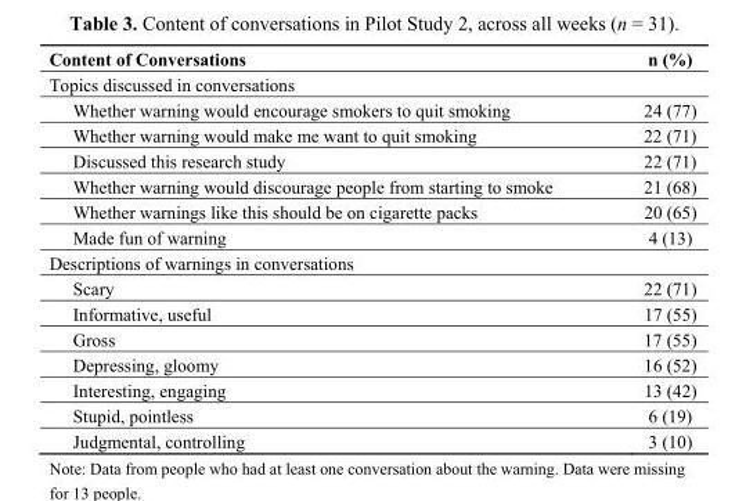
<table><thead><tr><td>Content of Conversations</td><td>n (%)</td></tr></thead><tbody><tr><td colspan="2">Topics discussed in conversations</td></tr><tr><td>Whether warning would encourage smokers to quit smoking</td><td>24 (77)</td></tr><tr><td>Whether warning would make me want to quit smoking</td><td>22 (71)</td></tr><tr><td>Discussed this research study</td><td>22 (71)</td></tr><tr><td>Whether warning would discourage people from starting to smoke</td><td>21 (68)</td></tr><tr><td>Whether warnings like this should be on cigarette packs</td><td>20 (65)</td></tr><tr><td>Made fun of warning</td><td>4 (13)</td></tr><tr><td colspan="2">Descriptions of warnings in conversations</td></tr><tr><td>Scary</td><td>22 (71)</td></tr><tr><td>Informative, useful</td><td>17 (55)</td></tr><tr><td>Gross</td><td>17 (55)</td></tr><tr><td>Depressing, gloomy</td><td>16 (52)</td></tr><tr><td>Interesting, engaging</td><td>13 (42)</td></tr><tr><td>Stupid, pointless</td><td>6 (19)</td></tr><tr><td>Judgmental, controlling</td><td>3 (10)</td></tr></tbody></table>